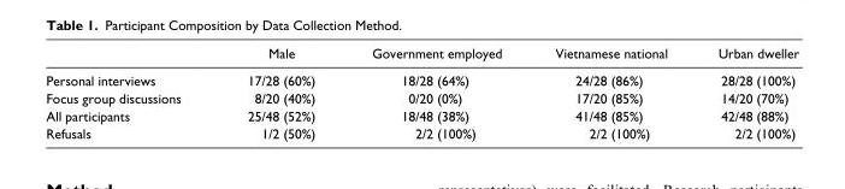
<table><thead><tr><td></td><td>Male</td><td>Government employed</td><td>Vietnamese national</td><td>Urban dweller</td></tr></thead><tbody><tr><td>Personal interviews</td><td>17/28 (60%)</td><td>18/28 (64%)</td><td>24/28 (86%)</td><td>28/28 (100%)</td></tr><tr><td>Focus group discussions</td><td>8/20 (40%)</td><td>0/20 (0%)</td><td>17/20 (85%)</td><td>14/20 (70%)</td></tr><tr><td>All participants</td><td>25/48 (52%)</td><td>18/48 (38%)</td><td>41/48 (85%)</td><td>42/48 (88%)</td></tr><tr><td>Refusals</td><td>1/2 (50%)</td><td>2/2 (100%)</td><td>2/2 (100%)</td><td>2/2 (100%)</td></tr></tbody></table>